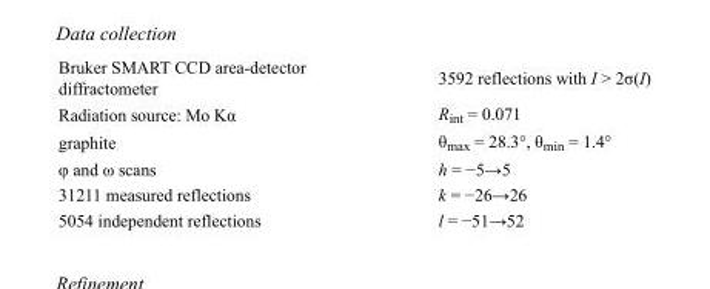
<table><tbody><tr><td>Bruker SMART CCD area-detector diffractometer</td><td>3592 reflections with I &gt; 2σ(I)</td></tr><tr><td>Radiation source: Mo Kα</td><td>R<sub>int</sub> = 0.071</td></tr><tr><td>graphite</td><td>θ<sub>max</sub> = 28.3°, θ<sub>min</sub> = 1.4°</td></tr><tr><td>φ and ω scans</td><td>h = −5→5</td></tr><tr><td>31211 measured reflections</td><td>k = −26→26</td></tr><tr><td>5054 independent reflections</td><td>l = −51→52</td></tr></tbody></table>